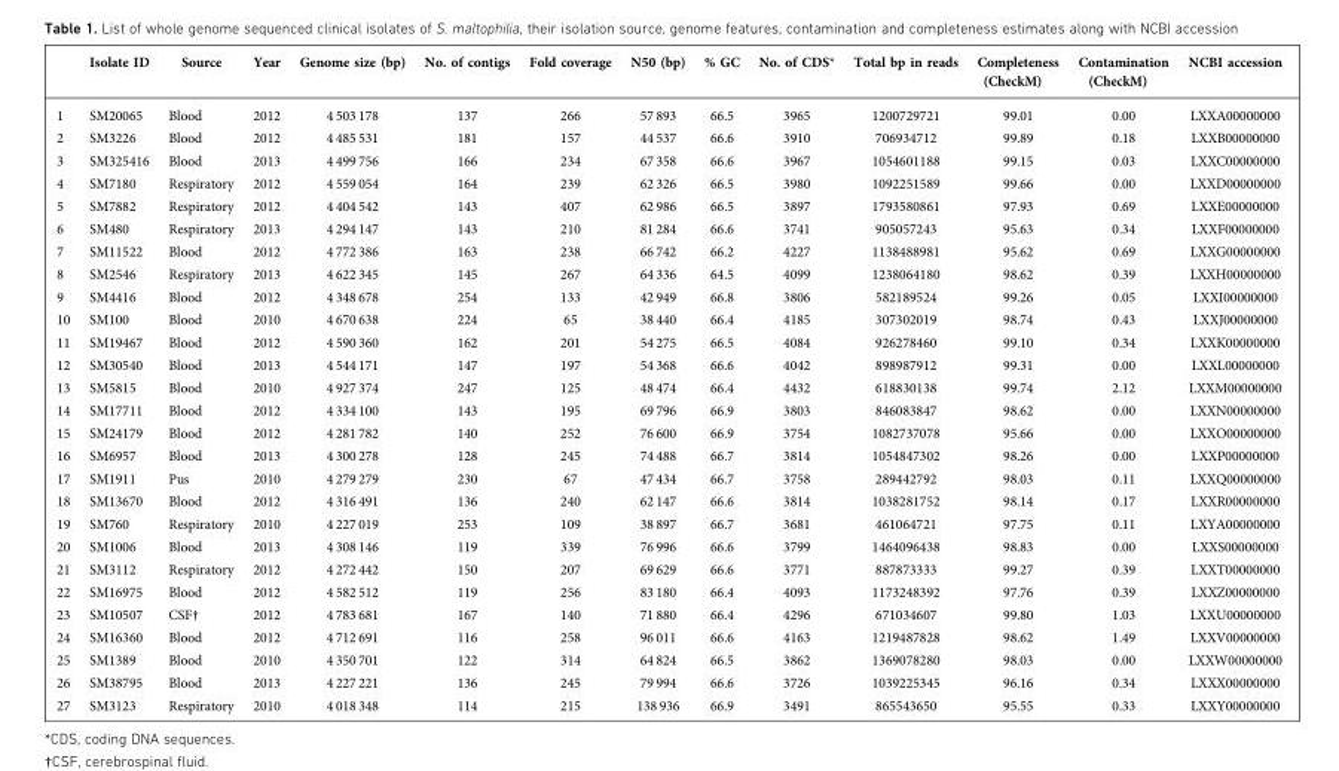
<table><thead><tr><td></td><td>Isolate ID</td><td>Source</td><td>Year</td><td>Genome size (bp)</td><td>No. of contigs</td><td>Fold coverage</td><td>N50 (bp)</td><td>% GC</td><td>No. of CDS*</td><td>Total bp in reads</td><td>Completeness (CheckM)</td><td>Contamination (CheckM)</td><td>NCBI accession</td></tr></thead><tbody><tr><td>1</td><td>SM20065</td><td>Blood</td><td>2012</td><td>4 503 178</td><td>137</td><td>266</td><td>57 893</td><td>66.5</td><td>3965</td><td>1200729721</td><td>99.01</td><td>0.00</td><td>LXXA00000000</td></tr><tr><td>2</td><td>SM3226</td><td>Blood</td><td>2012</td><td>4 485 531</td><td>181</td><td>157</td><td>44 537</td><td>66.6</td><td>3910</td><td>706934712</td><td>99.89</td><td>0.18</td><td>LXXB00000000</td></tr><tr><td>3</td><td>SM325416</td><td>Blood</td><td>2013</td><td>4 499 756</td><td>166</td><td>234</td><td>67 358</td><td>66.6</td><td>3967</td><td>1054601188</td><td>99.15</td><td>0.03</td><td>LXXC00000000</td></tr><tr><td>4</td><td>SM7180</td><td>Respiratory</td><td>2012</td><td>4 559 054</td><td>164</td><td>239</td><td>62 326</td><td>66.5</td><td>3980</td><td>1092251589</td><td>99.66</td><td>0.00</td><td>LXXD00000000</td></tr><tr><td>5</td><td>SM7882</td><td>Respiratory</td><td>2012</td><td>4 404 542</td><td>143</td><td>407</td><td>62 986</td><td>66.5</td><td>3897</td><td>1793580861</td><td>97.93</td><td>0.69</td><td>LXXE00000000</td></tr><tr><td>6</td><td>SM480</td><td>Respiratory</td><td>2013</td><td>4 294 147</td><td>143</td><td>210</td><td>81 284</td><td>66.6</td><td>3741</td><td>905057243</td><td>95.63</td><td>0.34</td><td>LXXF00000000</td></tr><tr><td>7</td><td>SM11522</td><td>Blood</td><td>2012</td><td>4 772 386</td><td>163</td><td>238</td><td>66 742</td><td>66.2</td><td>4227</td><td>1138488981</td><td>95.62</td><td>0.69</td><td>LXXG00000000</td></tr><tr><td>8</td><td>SM2546</td><td>Respiratory</td><td>2013</td><td>4 622 345</td><td>145</td><td>267</td><td>64 336</td><td>64.5</td><td>4099</td><td>1238064180</td><td>98.62</td><td>0.39</td><td>LXXH00000000</td></tr><tr><td>9</td><td>SM4416</td><td>Blood</td><td>2012</td><td>4 348 678</td><td>254</td><td>133</td><td>42 949</td><td>66.8</td><td>3806</td><td>582189524</td><td>99.26</td><td>0.05</td><td>LXXI00000000</td></tr><tr><td>10</td><td>SM100</td><td>Blood</td><td>2010</td><td>4 670 638</td><td>224</td><td>65</td><td>38 440</td><td>66.4</td><td>4185</td><td>307302019</td><td>98.74</td><td>0.43</td><td>LXXJ00000000</td></tr><tr><td>11</td><td>SM19467</td><td>Blood</td><td>2012</td><td>4 590 360</td><td>162</td><td>201</td><td>54 275</td><td>66.5</td><td>4084</td><td>926278460</td><td>99.10</td><td>0.34</td><td>LXXK00000000</td></tr><tr><td>12</td><td>SM30540</td><td>Blood</td><td>2013</td><td>4 544 171</td><td>147</td><td>197</td><td>54 368</td><td>66.6</td><td>4042</td><td>898987912</td><td>99.31</td><td>0.00</td><td>LXXL00000000</td></tr><tr><td>13</td><td>SM5815</td><td>Blood</td><td>2010</td><td>4 927 374</td><td>247</td><td>125</td><td>48 474</td><td>66.4</td><td>4432</td><td>618830138</td><td>99.74</td><td>2.12</td><td>LXXM00000000</td></tr><tr><td>14</td><td>SM17711</td><td>Blood</td><td>2012</td><td>4 334 100</td><td>143</td><td>195</td><td>69 796</td><td>66.9</td><td>3803</td><td>846083847</td><td>98.62</td><td>0.00</td><td>LXXN00000000</td></tr><tr><td>15</td><td>SM24179</td><td>Blood</td><td>2012</td><td>4 281 782</td><td>140</td><td>252</td><td>76 600</td><td>66.9</td><td>3754</td><td>1082737078</td><td>95.66</td><td>0.00</td><td>LXXO00000000</td></tr><tr><td>16</td><td>SM6957</td><td>Blood</td><td>2013</td><td>4 300 278</td><td>128</td><td>245</td><td>74 488</td><td>66.7</td><td>3814</td><td>1054847302</td><td>98.26</td><td>0.00</td><td>LXXP00000000</td></tr><tr><td>17</td><td>SM1911</td><td>Pus</td><td>2010</td><td>4 279 279</td><td>230</td><td>67</td><td>47 434</td><td>66.7</td><td>3758</td><td>289442792</td><td>98.03</td><td>0.11</td><td>LXXQ00000000</td></tr><tr><td>18</td><td>SM13670</td><td>Blood</td><td>2012</td><td>4 316 491</td><td>136</td><td>240</td><td>62 147</td><td>66.6</td><td>3814</td><td>1038281752</td><td>98.14</td><td>0.17</td><td>LXXR00000000</td></tr><tr><td>19</td><td>SM760</td><td>Respiratory</td><td>2010</td><td>4 227 019</td><td>253</td><td>109</td><td>38 897</td><td>66.7</td><td>3681</td><td>461064721</td><td>97.75</td><td>0.11</td><td>LXYA00000000</td></tr><tr><td>20</td><td>SM1006</td><td>Blood</td><td>2013</td><td>4 308 146</td><td>119</td><td>339</td><td>76 996</td><td>66.6</td><td>3799</td><td>1464096438</td><td>98.83</td><td>0.00</td><td>LXXS00000000</td></tr><tr><td>21</td><td>SM3112</td><td>Respiratory</td><td>2012</td><td>4 272 442</td><td>150</td><td>207</td><td>69 629</td><td>66.6</td><td>3771</td><td>887873333</td><td>99.27</td><td>0.39</td><td>LXXT00000000</td></tr><tr><td>22</td><td>SM16975</td><td>Blood</td><td>2012</td><td>4 582 512</td><td>119</td><td>256</td><td>83 180</td><td>66.4</td><td>4093</td><td>1173248392</td><td>97.76</td><td>0.39</td><td>LXXZ00000000</td></tr><tr><td>23</td><td>SM10507</td><td>CSF†</td><td>2012</td><td>4 783 681</td><td>167</td><td>140</td><td>71 880</td><td>66.4</td><td>4296</td><td>671034607</td><td>99.80</td><td>1.03</td><td>LXXU00000000</td></tr><tr><td>24</td><td>SM16360</td><td>Blood</td><td>2012</td><td>4 712 691</td><td>116</td><td>258</td><td>96 011</td><td>66.6</td><td>4163</td><td>1219487828</td><td>98.62</td><td>1.49</td><td>LXXV00000000</td></tr><tr><td>25</td><td>SM1389</td><td>Blood</td><td>2010</td><td>4 350 701</td><td>122</td><td>314</td><td>64 824</td><td>66.5</td><td>3862</td><td>1369078280</td><td>98.03</td><td>0.00</td><td>LXXW00000000</td></tr><tr><td>26</td><td>SM38795</td><td>Blood</td><td>2013</td><td>4 227 221</td><td>136</td><td>245</td><td>79 994</td><td>66.6</td><td>3726</td><td>1039225345</td><td>96.16</td><td>0.34</td><td>LXXX00000000</td></tr><tr><td>27</td><td>SM3123</td><td>Respiratory</td><td>2010</td><td>4 018 348</td><td>114</td><td>215</td><td>138 936</td><td>66.9</td><td>3491</td><td>865543650</td><td>95.55</td><td>0.33</td><td>LXXY00000000</td></tr></tbody></table>